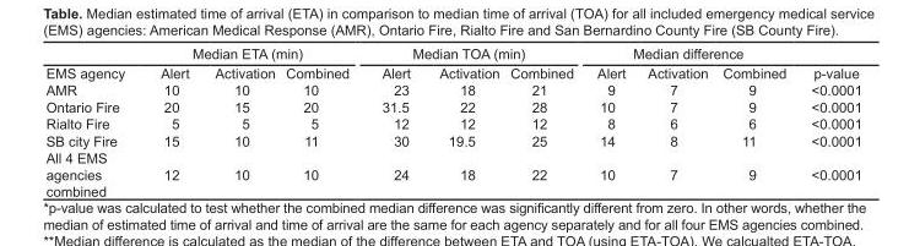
<table><thead><tr><td rowspan="2">EMS agency</td><td colspan="3">Median ETA (min)</td><td colspan="3">Median TOA (min)</td><td colspan="3">Median difference</td><td rowspan="2">p-value</td></tr><tr><td>Alert</td><td>Activation</td><td>Combined</td><td>Alert</td><td>Activation</td><td>Combined</td><td>Alert</td><td>Activation</td><td>Combined</td></tr></thead><tbody><tr><td>AMR</td><td>10</td><td>10</td><td>10</td><td>23</td><td>18</td><td>21</td><td>9</td><td>7</td><td>9</td><td>&lt;0.0001</td></tr><tr><td>Ontario Fire</td><td>20</td><td>15</td><td>20</td><td>31.5</td><td>22</td><td>28</td><td>10</td><td>7</td><td>9</td><td>&lt;0.0001</td></tr><tr><td>Rialto Fire</td><td>5</td><td>5</td><td>5</td><td>12</td><td>12</td><td>12</td><td>8</td><td>6</td><td>6</td><td>&lt;0.0001</td></tr><tr><td>SB city Fire</td><td>15</td><td>10</td><td>11</td><td>30</td><td>19.5</td><td>25</td><td>14</td><td>8</td><td>11</td><td>&lt;0.0001</td></tr><tr><td>All 4 EMS agencies combined</td><td>12</td><td>10</td><td>10</td><td>24</td><td>18</td><td>22</td><td>10</td><td>7</td><td>9</td><td>&lt;0.0001</td></tr></tbody></table>